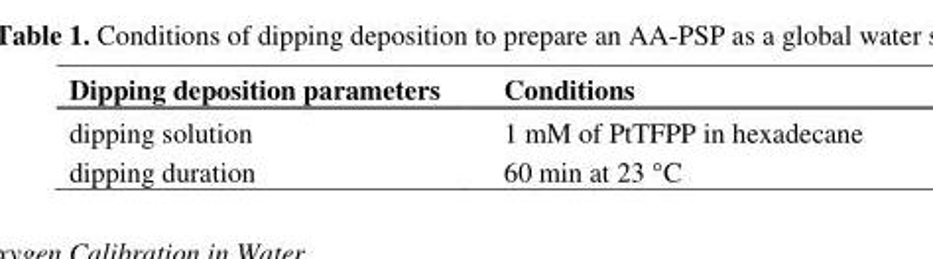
<table><thead><tr><td>Dipping deposition parameters</td><td>Conditions</td></tr></thead><tbody><tr><td>dipping solution</td><td>1 mM of PtTFPP in hexadecane</td></tr><tr><td>dipping duration</td><td>60 min at 23 °C</td></tr></tbody></table>